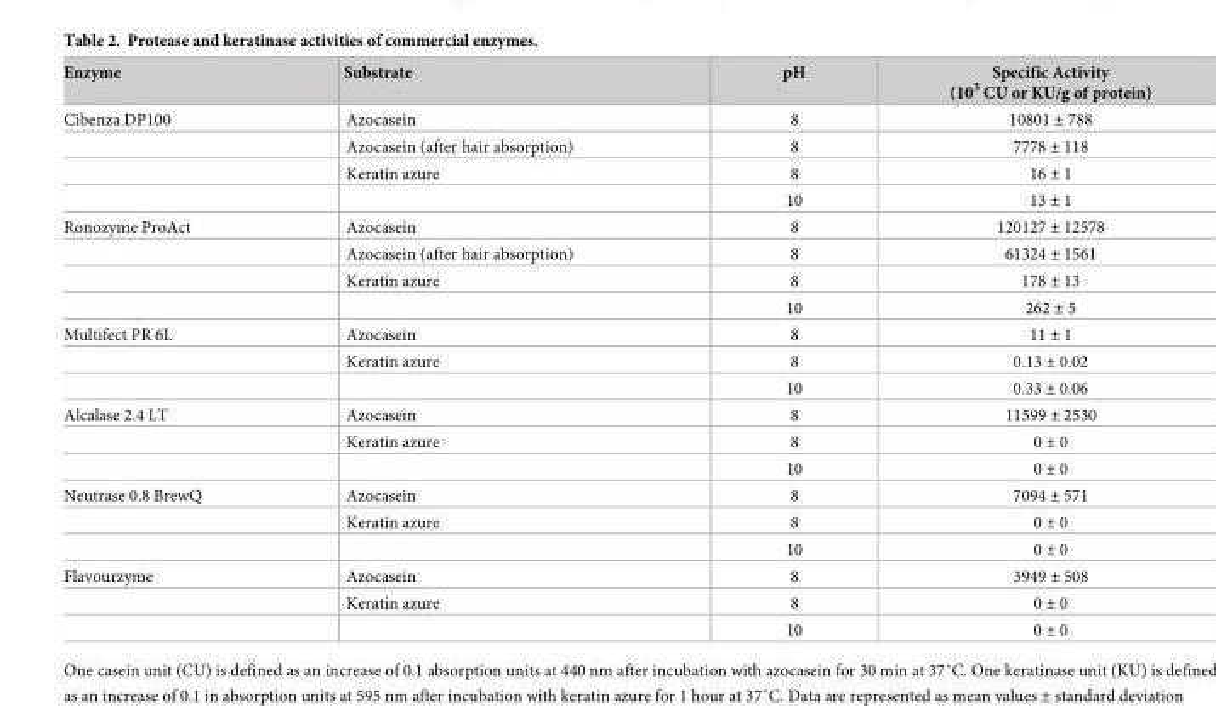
<table><thead><tr><td>Enzyme</td><td>Substrate</td><td>pH</td><td>Specific Activity (10<sup>3</sup> CU or KU/g of protein)</td></tr></thead><tbody><tr><td rowspan="4">Cibenza DP100</td><td>Azocasein</td><td>8</td><td>10801 ± 788</td></tr><tr><td>Azocasein (after hair absorption)</td><td>8</td><td>7778 ± 118</td></tr><tr><td>Keratin azure</td><td>8</td><td>16 ± 1</td></tr><tr><td></td><td>10</td><td>13 ± 1</td></tr><tr><td rowspan="4">Ronozyme ProAct</td><td>Azocasein</td><td>8</td><td>120127 ± 12578</td></tr><tr><td>Azocasein (after hair absorption)</td><td>8</td><td>61324 ± 1561</td></tr><tr><td>Keratin azure</td><td>8</td><td>178 ± 13</td></tr><tr><td></td><td>10</td><td>262 ± 5</td></tr><tr><td rowspan="3">Multifect PR 6L</td><td>Azocasein</td><td>8</td><td>11 ± 1</td></tr><tr><td>Keratin azure</td><td>8</td><td>0.13 ± 0.02</td></tr><tr><td></td><td>10</td><td>0.33 ± 0.06</td></tr><tr><td rowspan="3">Alcalase 2.4 LT</td><td>Azocasein</td><td>8</td><td>11599 ± 2530</td></tr><tr><td>Keratin azure</td><td>8</td><td>0 ± 0</td></tr><tr><td></td><td>10</td><td>0 ± 0</td></tr><tr><td rowspan="3">Neutrase 0.8 BrewQ</td><td>Azocasein</td><td>8</td><td>7094 ± 571</td></tr><tr><td>Keratin azure</td><td>8</td><td>0 ± 0</td></tr><tr><td></td><td>10</td><td>0 ± 0</td></tr><tr><td rowspan="3">Flavourzyme</td><td>Azocasein</td><td>8</td><td>3949 ± 508</td></tr><tr><td>Keratin azure</td><td>8</td><td>0 ± 0</td></tr><tr><td></td><td>10</td><td>0 ± 0</td></tr></tbody></table>